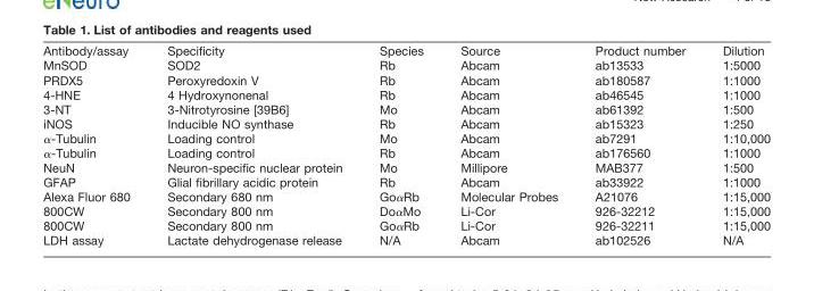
<table><thead><tr><td>Antibody/assay</td><td>Specificity</td><td>Species</td><td>Source</td><td>Product number</td><td>Dilution</td></tr></thead><tbody><tr><td>MnSOD</td><td>SOD2</td><td>Rb</td><td>Abcam</td><td>ab13533</td><td>1:5000</td></tr><tr><td>PRDX5</td><td>Peroxyredoxin V</td><td>Rb</td><td>Abcam</td><td>ab180587</td><td>1:1000</td></tr><tr><td>4-HNE</td><td>4 Hydroxynonenal</td><td>Rb</td><td>Abcam</td><td>ab46545</td><td>1:1000</td></tr><tr><td>3-NT</td><td>3-Nitrotyrosine [39B6]</td><td>Mo</td><td>Abcam</td><td>ab61392</td><td>1:500</td></tr><tr><td>iNOS</td><td>Inducible NO synthase</td><td>Rb</td><td>Abcam</td><td>ab15323</td><td>1:250</td></tr><tr><td>α-Tubulin</td><td>Loading control</td><td>Mo</td><td>Abcam</td><td>ab7291</td><td>1:10,000</td></tr><tr><td>α-Tubulin</td><td>Loading control</td><td>Rb</td><td>Abcam</td><td>ab176560</td><td>1:1000</td></tr><tr><td>NeuN</td><td>Neuron-specific nuclear protein</td><td>Mo</td><td>Millipore</td><td>MAB377</td><td>1:500</td></tr><tr><td>GFAP</td><td>Glial fibrillary acidic protein</td><td>Rb</td><td>Abcam</td><td>ab33922</td><td>1:1000</td></tr><tr><td>Alexa Fluor 680</td><td>Secondary 680 nm</td><td>GoαRb</td><td>Molecular Probes</td><td>A21076</td><td>1:15,000</td></tr><tr><td>800CW</td><td>Secondary 800 nm</td><td>DoαMo</td><td>Li-Cor</td><td>926-32212</td><td>1:15,000</td></tr><tr><td>800CW</td><td>Secondary 800 nm</td><td>GoαRb</td><td>Li-Cor</td><td>926-32211</td><td>1:15,000</td></tr><tr><td>LDH assay</td><td>Lactate dehydrogenase release</td><td>N/A</td><td>Abcam</td><td>ab102526</td><td>N/A</td></tr></tbody></table>